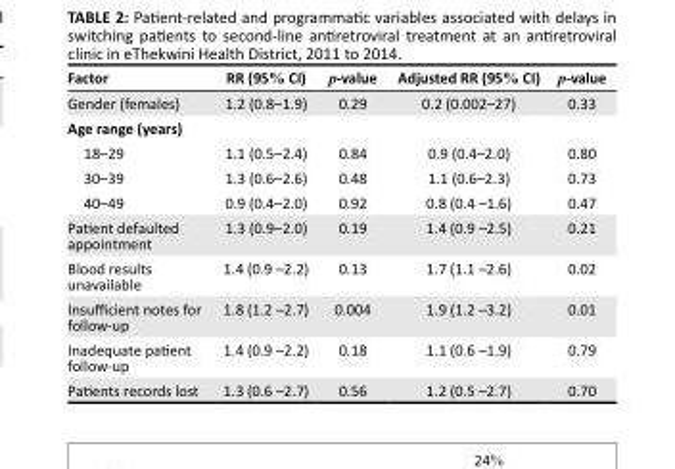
<table><thead><tr><td>Factor</td><td>RR (95% CI)</td><td>p-value</td><td>Adjusted RR (95% CI)</td><td>p-value</td></tr></thead><tbody><tr><td>Gender (females)</td><td>1.2 (0.8–1.9)</td><td>0.29</td><td>0.2 (0.002–27)</td><td>0.33</td></tr><tr><td colspan="5">Age range (years)</td></tr><tr><td>18–29</td><td>1.1 (0.5–2.4)</td><td>0.84</td><td>0.9 (0.4–2.0)</td><td>0.80</td></tr><tr><td>30–39</td><td>1.3 (0.6–2.6)</td><td>0.48</td><td>1.1 (0.6–2.3)</td><td>0.73</td></tr><tr><td>40–49</td><td>0.9 (0.4–2.0)</td><td>0.92</td><td>0.8 (0.4 –1.6)</td><td>0.47</td></tr><tr><td>Patient defaulted appointment</td><td>1.3 (0.9–2.0)</td><td>0.19</td><td>1.4 (0.9 –2.5)</td><td>0.21</td></tr><tr><td>Blood results unavailable</td><td>1.4 (0.9 –2.2)</td><td>0.13</td><td>1.7 (1.1 –2.6)</td><td>0.02</td></tr><tr><td>Insufficient notes for follow-up</td><td>1.8 (1.2 –2.7)</td><td>0.004</td><td>1.9 (1.2 –3.2)</td><td>0.01</td></tr><tr><td>Inadequate patient follow-up</td><td>1.4 (0.9 –2.2)</td><td>0.18</td><td>1.1 (0.6 –1.9)</td><td>0.79</td></tr><tr><td>Patients records lost</td><td>1.3 (0.6 –2.7)</td><td>0.56</td><td>1.2 (0.5 –2.7)</td><td>0.70</td></tr></tbody></table>